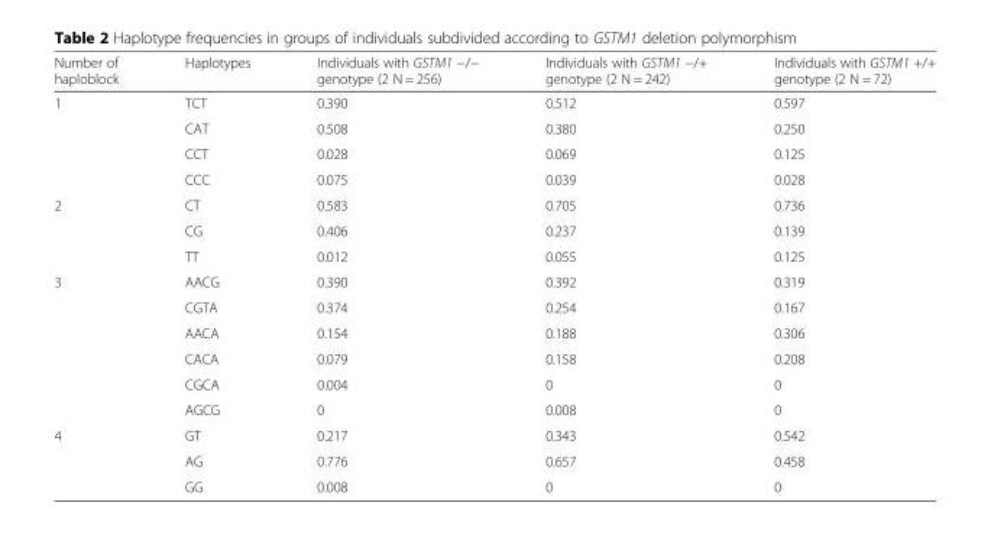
<table><thead><tr><td>Number of haploblock</td><td>Haplotypes</td><td>Individuals with GSTM1 −/− genotype (2 N = 256)</td><td>Individuals with GSTM1 −/+ genotype (2 N = 242)</td><td>Individuals with GSTM1 +/+ genotype (2 N = 72)</td></tr></thead><tbody><tr><td rowspan="4">1</td><td>TCT</td><td>0.390</td><td>0.512</td><td>0.597</td></tr><tr><td>CAT</td><td>0.508</td><td>0.380</td><td>0.250</td></tr><tr><td>CCT</td><td>0.028</td><td>0.069</td><td>0.125</td></tr><tr><td>CCC</td><td>0.075</td><td>0.039</td><td>0.028</td></tr><tr><td rowspan="3">2</td><td>CT</td><td>0.583</td><td>0.705</td><td>0.736</td></tr><tr><td>CG</td><td>0.406</td><td>0.237</td><td>0.139</td></tr><tr><td>TT</td><td>0.012</td><td>0.055</td><td>0.125</td></tr><tr><td rowspan="6">3</td><td>AACG</td><td>0.390</td><td>0.392</td><td>0.319</td></tr><tr><td>CGTA</td><td>0.374</td><td>0.254</td><td>0.167</td></tr><tr><td>AACA</td><td>0.154</td><td>0.188</td><td>0.306</td></tr><tr><td>CACA</td><td>0.079</td><td>0.158</td><td>0.208</td></tr><tr><td>CGCA</td><td>0.004</td><td>0</td><td>0</td></tr><tr><td>AGCG</td><td>0</td><td>0.008</td><td>0</td></tr><tr><td rowspan="3">4</td><td>GT</td><td>0.217</td><td>0.343</td><td>0.542</td></tr><tr><td>AG</td><td>0.776</td><td>0.657</td><td>0.458</td></tr><tr><td>GG</td><td>0.008</td><td>0</td><td>0</td></tr></tbody></table>